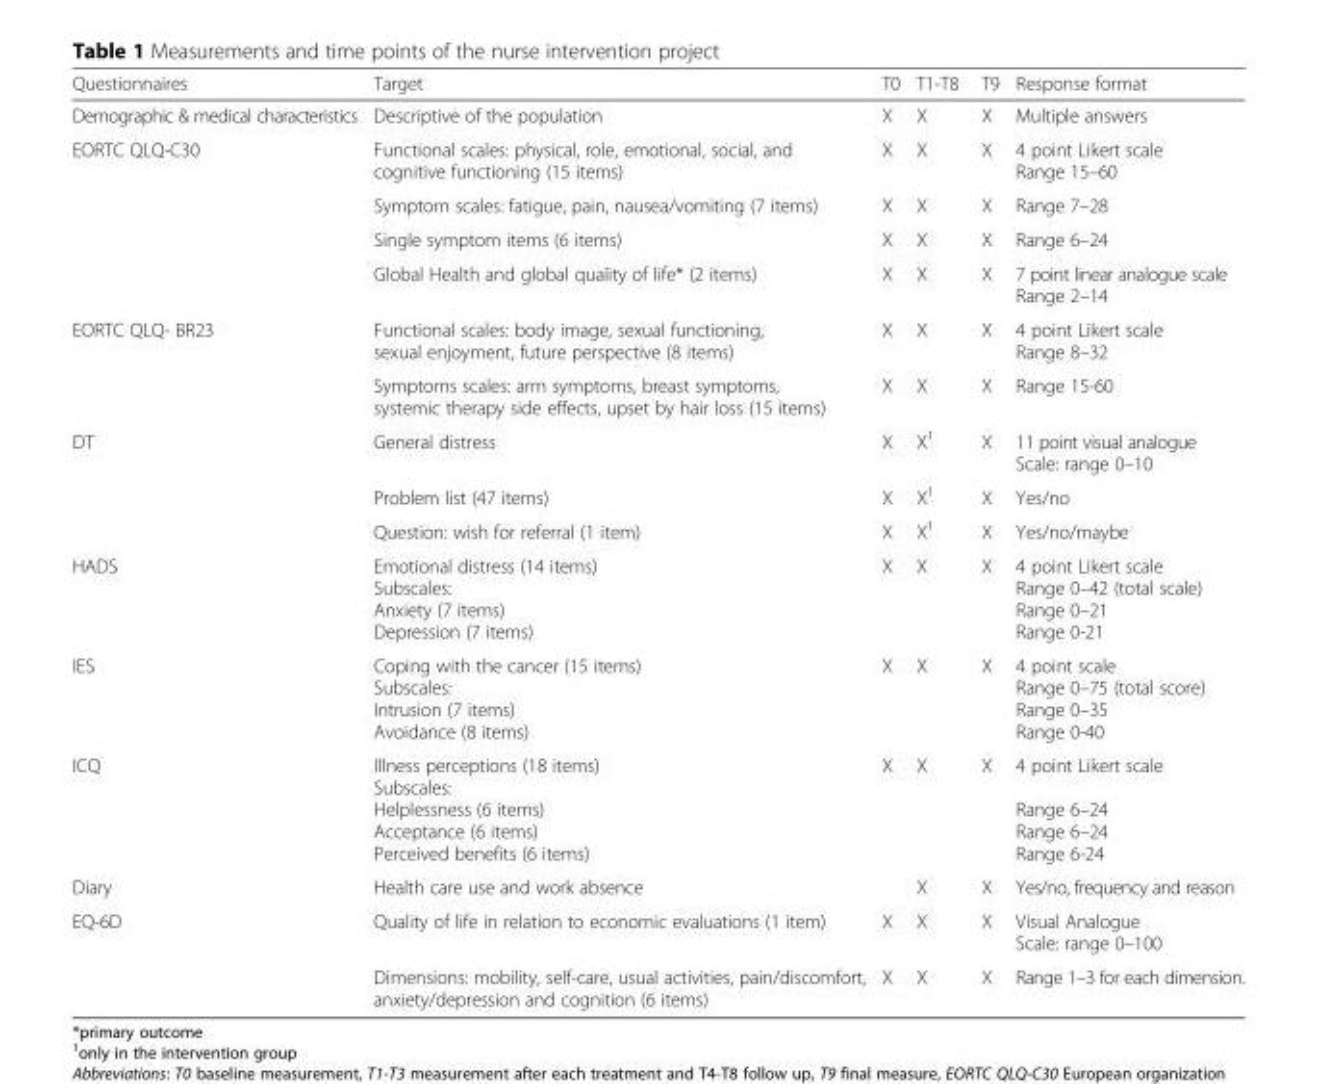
<table><thead><tr><td>Questionnaires</td><td>Target</td><td>T0</td><td>T1-T8</td><td>T9</td><td>Response format</td></tr></thead><tbody><tr><td>Demographic &amp; medical characteristics</td><td>Descriptive of the population</td><td>X</td><td>X</td><td>X</td><td>Multiple answers</td></tr><tr><td rowspan="4">EORTC QLQ-C30</td><td>Functional scales: physical, role, emotional, social, and cognitive functioning (15 items)</td><td>X</td><td>X</td><td>X</td><td>4 point Likert scale Range 15–60</td></tr><tr><td>Symptom scales: fatigue, pain, nausea/vomiting (7 items)</td><td>X</td><td>X</td><td>X</td><td>Range 7–28</td></tr><tr><td>Single symptom items (6 items)</td><td>X</td><td>X</td><td>X</td><td>Range 6–24</td></tr><tr><td>Global Health and global quality of life* (2 items)</td><td>X</td><td>X</td><td>X</td><td>7 point linear analogue scale Range 2–14</td></tr><tr><td rowspan="2">EORTC QLQ- BR23</td><td>Functional scales: body image, sexual functioning, sexual enjoyment, future perspective (8 items)</td><td>X</td><td>X</td><td>X</td><td>4 point Likert scale Range 8–32</td></tr><tr><td>Symptoms scales: arm symptoms, breast symptoms, systemic therapy side effects, upset by hair loss (15 items)</td><td>X</td><td>X</td><td>X</td><td>Range 15-60</td></tr><tr><td rowspan="3">DT</td><td>General distress</td><td>X</td><td>X<sup>1</sup></td><td>X</td><td>11 point visual analogue Scale: range 0–10</td></tr><tr><td>Problem list (47 items)</td><td>X</td><td>X<sup>1</sup></td><td>X</td><td>Yes/no</td></tr><tr><td>Question: wish for referral (1 item)</td><td>X</td><td>X<sup>1</sup></td><td>X</td><td>Yes/no/maybe</td></tr><tr><td>HADS</td><td>Emotional distress (14 items) Subscales: Anxiety (7 items) Depression (7 items)</td><td>X</td><td>X</td><td>X</td><td>4 point Likert scale Range 0–42 (total scale) Range 0–21 Range 0-21</td></tr><tr><td>IES</td><td>Coping with the cancer (15 items) Subscales: Intrusion (7 items) Avoidance (8 items)</td><td>X</td><td>X</td><td>X</td><td>4 point scale Range 0–75 (total score) Range 0–35 Range 0-40</td></tr><tr><td>ICQ</td><td>Illness perceptions (18 items) Subscales: Helplessness (6 items) Acceptance (6 items) Perceived benefits (6 items)</td><td>X</td><td>X</td><td>X</td><td>4 point Likert scale Range 6–24 Range 6–24 Range 6-24</td></tr><tr><td>Diary</td><td>Health care use and work absence</td><td></td><td>X</td><td>X</td><td>Yes/no, frequency and reason</td></tr><tr><td rowspan="2">EQ-6D</td><td>Quality of life in relation to economic evaluations (1 item)</td><td>X</td><td>X</td><td>X</td><td>Visual Analogue Scale: range 0–100</td></tr><tr><td>Dimensions: mobility, self-care, usual activities, pain/discomfort, anxiety/depression and cognition (6 items)</td><td>X</td><td>X</td><td>X</td><td>Range 1–3 for each dimension.</td></tr></tbody></table>